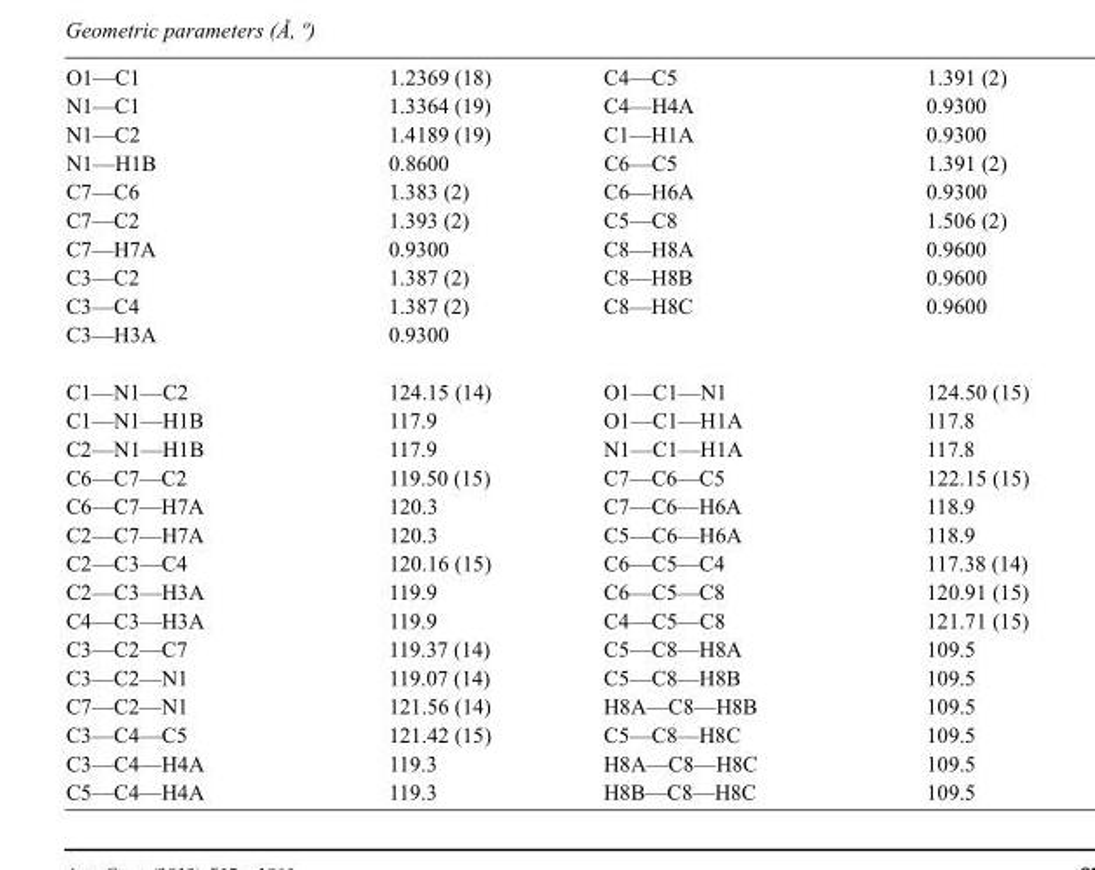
<table><tbody><tr><td>O1—C1</td><td>1.2369 (18)</td><td>C4—C5</td><td>1.391 (2)</td></tr><tr><td>N1—C1</td><td>1.3364 (19)</td><td>C4—H4A</td><td>0.9300</td></tr><tr><td>N1—C2</td><td>1.4189 (19)</td><td>C1—H1A</td><td>0.9300</td></tr><tr><td>N1—H1B</td><td>0.8600</td><td>C6—C5</td><td>1.391 (2)</td></tr><tr><td>C7—C6</td><td>1.383 (2)</td><td>C6—H6A</td><td>0.9300</td></tr><tr><td>C7—C2</td><td>1.393 (2)</td><td>C5—C8</td><td>1.506 (2)</td></tr><tr><td>C7—H7A</td><td>0.9300</td><td>C8—H8A</td><td>0.9600</td></tr><tr><td>C3—C2</td><td>1.387 (2)</td><td>C8—H8B</td><td>0.9600</td></tr><tr><td>C3—C4</td><td>1.387 (2)</td><td>C8—H8C</td><td>0.9600</td></tr><tr><td>C3—H3A</td><td>0.9300</td><td></td><td></td></tr><tr><td>C1—N1—C2</td><td>124.15 (14)</td><td>O1—C1—N1</td><td>124.50 (15)</td></tr><tr><td>C1—N1—H1B</td><td>117.9</td><td>O1—C1—H1A</td><td>117.8</td></tr><tr><td>C2—N1—H1B</td><td>117.9</td><td>N1—C1—H1A</td><td>117.8</td></tr><tr><td>C6—C7—C2</td><td>119.50 (15)</td><td>C7—C6—C5</td><td>122.15 (15)</td></tr><tr><td>C6—C7—H7A</td><td>120.3</td><td>C7—C6—H6A</td><td>118.9</td></tr><tr><td>C2—C7—H7A</td><td>120.3</td><td>C5—C6—H6A</td><td>118.9</td></tr><tr><td>C2—C3—C4</td><td>120.16 (15)</td><td>C6—C5—C4</td><td>117.38 (14)</td></tr><tr><td>C2—C3—H3A</td><td>119.9</td><td>C6—C5—C8</td><td>120.91 (15)</td></tr><tr><td>C4—C3—H3A</td><td>119.9</td><td>C4—C5—C8</td><td>121.71 (15)</td></tr><tr><td>C3—C2—C7</td><td>119.37 (14)</td><td>C5—C8—H8A</td><td>109.5</td></tr><tr><td>C3—C2—N1</td><td>119.07 (14)</td><td>C5—C8—H8B</td><td>109.5</td></tr><tr><td>C7—C2—N1</td><td>121.56 (14)</td><td>H8A—C8—H8B</td><td>109.5</td></tr><tr><td>C3—C4—C5</td><td>121.42 (15)</td><td>C5—C8—H8C</td><td>109.5</td></tr><tr><td>C3—C4—H4A</td><td>119.3</td><td>H8A—C8—H8C</td><td>109.5</td></tr><tr><td>C5—C4—H4A</td><td>119.3</td><td>H8B—C8—H8C</td><td>109.5</td></tr></tbody></table>